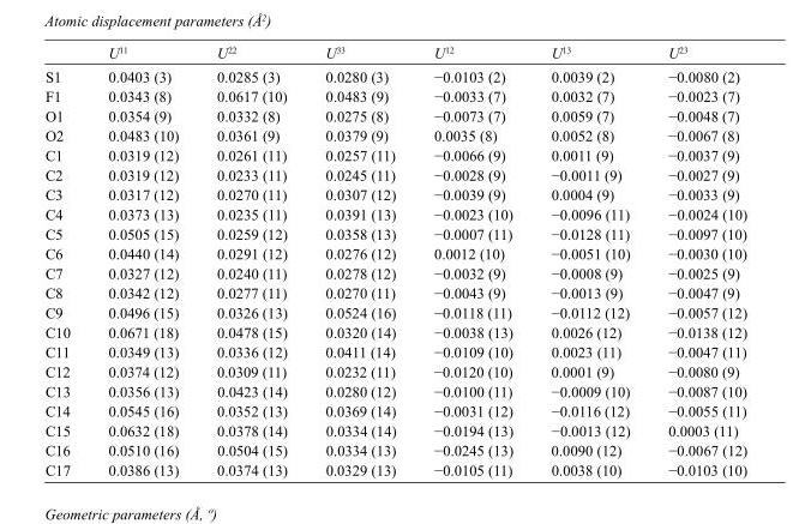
<table><thead><tr><td></td><td>U<sup>11</sup></td><td>U<sup>22</sup></td><td>U<sup>33</sup></td><td>U<sup>12</sup></td><td>U<sup>13</sup></td><td>U<sup>23</sup></td></tr></thead><tbody><tr><td>S1</td><td>0.0403 (3)</td><td>0.0285 (3)</td><td>0.0280 (3)</td><td>−0.0103 (2)</td><td>0.0039 (2)</td><td>−0.0080 (2)</td></tr><tr><td>F1</td><td>0.0343 (8)</td><td>0.0617 (10)</td><td>0.0483 (9)</td><td>−0.0033 (7)</td><td>0.0032 (7)</td><td>−0.0023 (7)</td></tr><tr><td>O1</td><td>0.0354 (9)</td><td>0.0332 (8)</td><td>0.0275 (8)</td><td>−0.0073 (7)</td><td>0.0059 (7)</td><td>−0.0048 (7)</td></tr><tr><td>O2</td><td>0.0483 (10)</td><td>0.0361 (9)</td><td>0.0379 (9)</td><td>0.0035 (8)</td><td>0.0052 (8)</td><td>−0.0067 (8)</td></tr><tr><td>C1</td><td>0.0319 (12)</td><td>0.0261 (11)</td><td>0.0257 (11)</td><td>−0.0066 (9)</td><td>0.0011 (9)</td><td>−0.0037 (9)</td></tr><tr><td>C2</td><td>0.0319 (12)</td><td>0.0233 (11)</td><td>0.0245 (11)</td><td>−0.0028 (9)</td><td>−0.0011 (9)</td><td>−0.0027 (9)</td></tr><tr><td>C3</td><td>0.0317 (12)</td><td>0.0270 (11)</td><td>0.0307 (12)</td><td>−0.0039 (9)</td><td>0.0004 (9)</td><td>−0.0033 (9)</td></tr><tr><td>C4</td><td>0.0373 (13)</td><td>0.0235 (11)</td><td>0.0391 (13)</td><td>−0.0023 (10)</td><td>−0.0096 (11)</td><td>−0.0024 (10)</td></tr><tr><td>C5</td><td>0.0505 (15)</td><td>0.0259 (12)</td><td>0.0358 (13)</td><td>−0.0007 (11)</td><td>−0.0128 (11)</td><td>−0.0097 (10)</td></tr><tr><td>C6</td><td>0.0440 (14)</td><td>0.0291 (12)</td><td>0.0276 (12)</td><td>0.0012 (10)</td><td>−0.0051 (10)</td><td>−0.0030 (10)</td></tr><tr><td>C7</td><td>0.0327 (12)</td><td>0.0240 (11)</td><td>0.0278 (12)</td><td>−0.0032 (9)</td><td>−0.0008 (9)</td><td>−0.0025 (9)</td></tr><tr><td>C8</td><td>0.0342 (12)</td><td>0.0277 (11)</td><td>0.0270 (11)</td><td>−0.0043 (9)</td><td>−0.0013 (9)</td><td>−0.0047 (9)</td></tr><tr><td>C9</td><td>0.0496 (15)</td><td>0.0326 (13)</td><td>0.0524 (16)</td><td>−0.0118 (11)</td><td>−0.0112 (12)</td><td>−0.0057 (12)</td></tr><tr><td>C10</td><td>0.0671 (18)</td><td>0.0478 (15)</td><td>0.0320 (14)</td><td>−0.0038 (13)</td><td>0.0026 (12)</td><td>−0.0138 (12)</td></tr><tr><td>C11</td><td>0.0349 (13)</td><td>0.0336 (12)</td><td>0.0411 (14)</td><td>−0.0109 (10)</td><td>0.0023 (11)</td><td>−0.0047 (11)</td></tr><tr><td>C12</td><td>0.0374 (12)</td><td>0.0309 (11)</td><td>0.0232 (11)</td><td>−0.0120 (10)</td><td>0.0001 (9)</td><td>−0.0080 (9)</td></tr><tr><td>C13</td><td>0.0356 (13)</td><td>0.0423 (14)</td><td>0.0280 (12)</td><td>−0.0100 (11)</td><td>−0.0009 (10)</td><td>−0.0087 (10)</td></tr><tr><td>C14</td><td>0.0545 (16)</td><td>0.0352 (13)</td><td>0.0369 (14)</td><td>−0.0031 (12)</td><td>−0.0116 (12)</td><td>−0.0055 (11)</td></tr><tr><td>C15</td><td>0.0632 (18)</td><td>0.0378 (14)</td><td>0.0334 (14)</td><td>−0.0194 (13)</td><td>−0.0013 (12)</td><td>0.0003 (11)</td></tr><tr><td>C16</td><td>0.0510 (16)</td><td>0.0504 (15)</td><td>0.0334 (13)</td><td>−0.0245 (13)</td><td>0.0090 (12)</td><td>−0.0067 (12)</td></tr><tr><td>C17</td><td>0.0386 (13)</td><td>0.0374 (13)</td><td>0.0329 (13)</td><td>−0.0105 (11)</td><td>0.0038 (10)</td><td>−0.0103 (10)</td></tr></tbody></table>